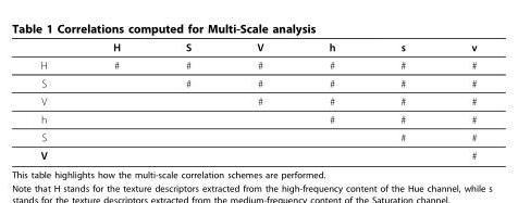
<table><thead><tr><td></td><td>H</td><td>S</td><td>V</td><td>h</td><td>s</td><td>v</td></tr></thead><tbody><tr><td>H</td><td>#</td><td>#</td><td>#</td><td>#</td><td>#</td><td>#</td></tr><tr><td>S</td><td></td><td>#</td><td>#</td><td>#</td><td>#</td><td>#</td></tr><tr><td>V</td><td></td><td></td><td>#</td><td>#</td><td>#</td><td>#</td></tr><tr><td>h</td><td></td><td></td><td></td><td>#</td><td>#</td><td>#</td></tr><tr><td>S</td><td></td><td></td><td></td><td></td><td>#</td><td>#</td></tr><tr><td>V</td><td></td><td></td><td></td><td></td><td></td><td>#</td></tr></tbody></table>